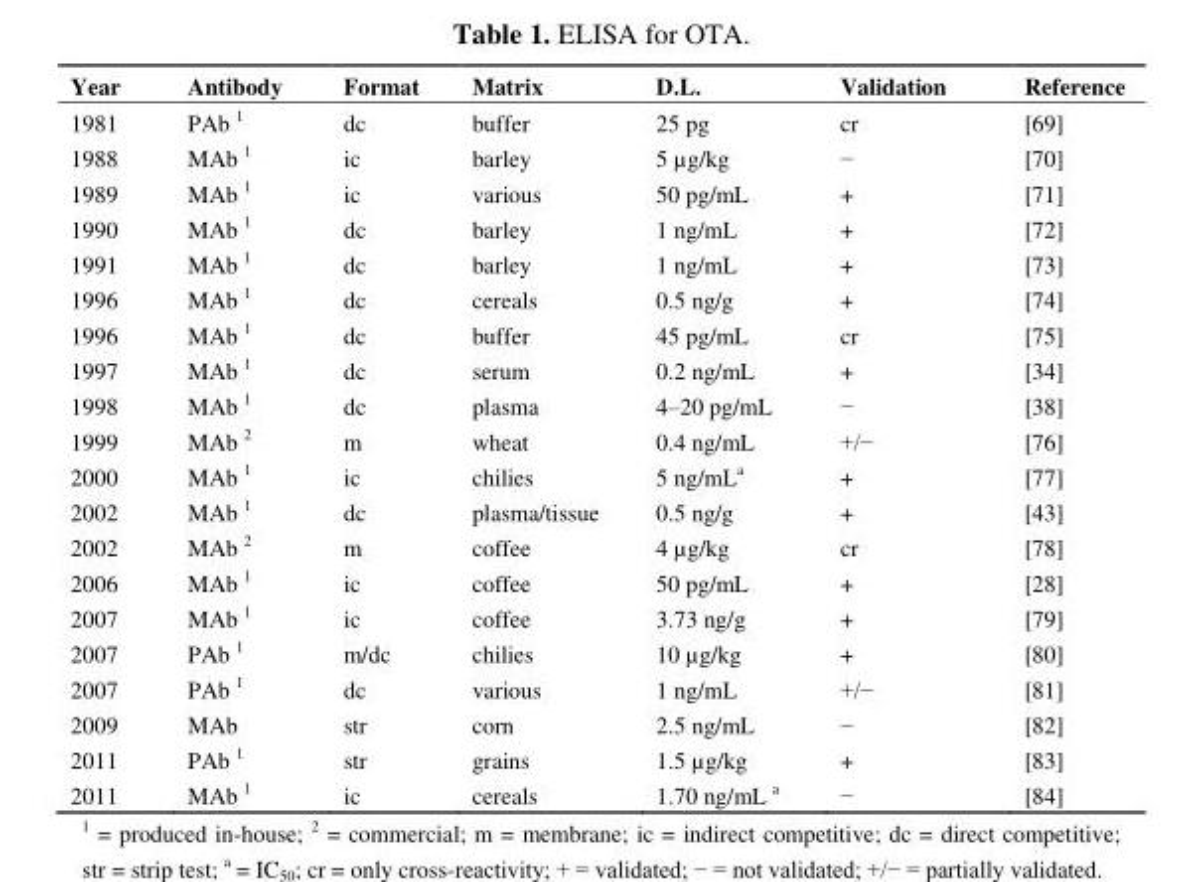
<table><thead><tr><td>Year</td><td>Antibody</td><td>Format</td><td>Matrix</td><td>D.L.</td><td>Validation</td><td>Reference</td></tr></thead><tbody><tr><td>1981</td><td>PAb <sup>1</sup></td><td>dc</td><td>buffer</td><td>25 pg</td><td>cr</td><td>[69]</td></tr><tr><td>1988</td><td>MAb <sup>1</sup></td><td>ic</td><td>barley</td><td>5 µg/kg</td><td>−</td><td>[70]</td></tr><tr><td>1989</td><td>MAb <sup>1</sup></td><td>ic</td><td>various</td><td>50 pg/mL</td><td>+</td><td>[71]</td></tr><tr><td>1990</td><td>MAb <sup>1</sup></td><td>dc</td><td>barley</td><td>1 ng/mL</td><td>+</td><td>[72]</td></tr><tr><td>1991</td><td>MAb <sup>1</sup></td><td>dc</td><td>barley</td><td>1 ng/mL</td><td>+</td><td>[73]</td></tr><tr><td>1996</td><td>MAb <sup>1</sup></td><td>dc</td><td>cereals</td><td>0.5 ng/g</td><td>+</td><td>[74]</td></tr><tr><td>1996</td><td>MAb <sup>1</sup></td><td>dc</td><td>buffer</td><td>45 pg/mL</td><td>cr</td><td>[75]</td></tr><tr><td>1997</td><td>MAb <sup>1</sup></td><td>dc</td><td>serum</td><td>0.2 ng/mL</td><td>+</td><td>[34]</td></tr><tr><td>1998</td><td>MAb <sup>1</sup></td><td>dc</td><td>plasma</td><td>4–20 pg/mL</td><td>−</td><td>[38]</td></tr><tr><td>1999</td><td>MAb <sup>2</sup></td><td>m</td><td>wheat</td><td>0.4 ng/mL</td><td>+/−</td><td>[76]</td></tr><tr><td>2000</td><td>MAb <sup>1</sup></td><td>ic</td><td>chilies</td><td>5 ng/mL<sup>a</sup></td><td>+</td><td>[77]</td></tr><tr><td>2002</td><td>MAb <sup>1</sup></td><td>dc</td><td>plasma/tissue</td><td>0.5 ng/g</td><td>+</td><td>[43]</td></tr><tr><td>2002</td><td>MAb <sup>2</sup></td><td>m</td><td>coffee</td><td>4 µg/kg</td><td>cr</td><td>[78]</td></tr><tr><td>2006</td><td>MAb <sup>1</sup></td><td>ic</td><td>coffee</td><td>50 pg/mL</td><td>+</td><td>[28]</td></tr><tr><td>2007</td><td>MAb <sup>1</sup></td><td>ic</td><td>coffee</td><td>3.73 ng/g</td><td>+</td><td>[79]</td></tr><tr><td>2007</td><td>PAb <sup>1</sup></td><td>m/dc</td><td>chilies</td><td>10 µg/kg</td><td>+</td><td>[80]</td></tr><tr><td>2007</td><td>PAb <sup>1</sup></td><td>dc</td><td>various</td><td>1 ng/mL</td><td>+/−</td><td>[81]</td></tr><tr><td>2009</td><td>MAb</td><td>str</td><td>corn</td><td>2.5 ng/mL</td><td>−</td><td>[82]</td></tr><tr><td>2011</td><td>PAb <sup>1</sup></td><td>str</td><td>grains</td><td>1.5 µg/kg</td><td>+</td><td>[83]</td></tr><tr><td>2011</td><td>MAb <sup>1</sup></td><td>ic</td><td>cereals</td><td>1.70 ng/mL <sup>a</sup></td><td>−</td><td>[84]</td></tr></tbody></table>